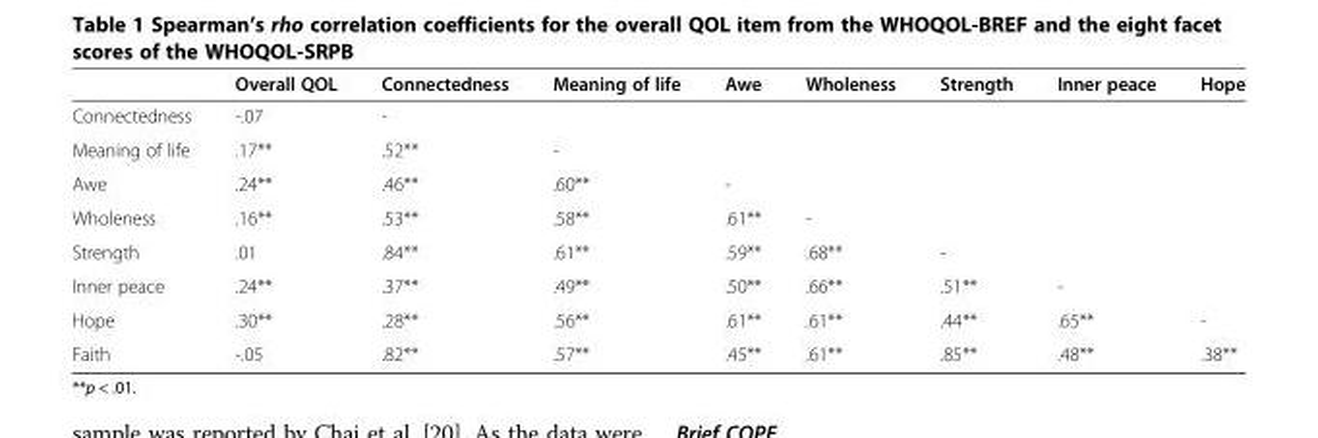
<table><thead><tr><td></td><td>Overall QOL</td><td>Connectedness</td><td>Meaning of life</td><td>Awe</td><td>Wholeness</td><td>Strength</td><td>Inner peace</td><td>Hope</td></tr></thead><tbody><tr><td>Connectedness</td><td>-.07</td><td>-</td><td></td><td></td><td></td><td></td><td></td><td></td></tr><tr><td>Meaning of life</td><td>.17**</td><td>.52**</td><td>-</td><td></td><td></td><td></td><td></td><td></td></tr><tr><td>Awe</td><td>.24**</td><td>.46**</td><td>.60**</td><td>-</td><td></td><td></td><td></td><td></td></tr><tr><td>Wholeness</td><td>.16**</td><td>.53**</td><td>.58**</td><td>.61**</td><td>-</td><td></td><td></td><td></td></tr><tr><td>Strength</td><td>.01</td><td>.84**</td><td>.61**</td><td>.59**</td><td>.68**</td><td>-</td><td></td><td></td></tr><tr><td>Inner peace</td><td>.24**</td><td>.37**</td><td>.49**</td><td>.50**</td><td>.66**</td><td>.51**</td><td>-</td><td></td></tr><tr><td>Hope</td><td>.30**</td><td>.28**</td><td>.56**</td><td>.61**</td><td>.61**</td><td>.44**</td><td>.65**</td><td>-</td></tr><tr><td>Faith</td><td>-.05</td><td>.82**</td><td>.57**</td><td>.45**</td><td>.61**</td><td>.85**</td><td>.48**</td><td>.38**</td></tr></tbody></table>